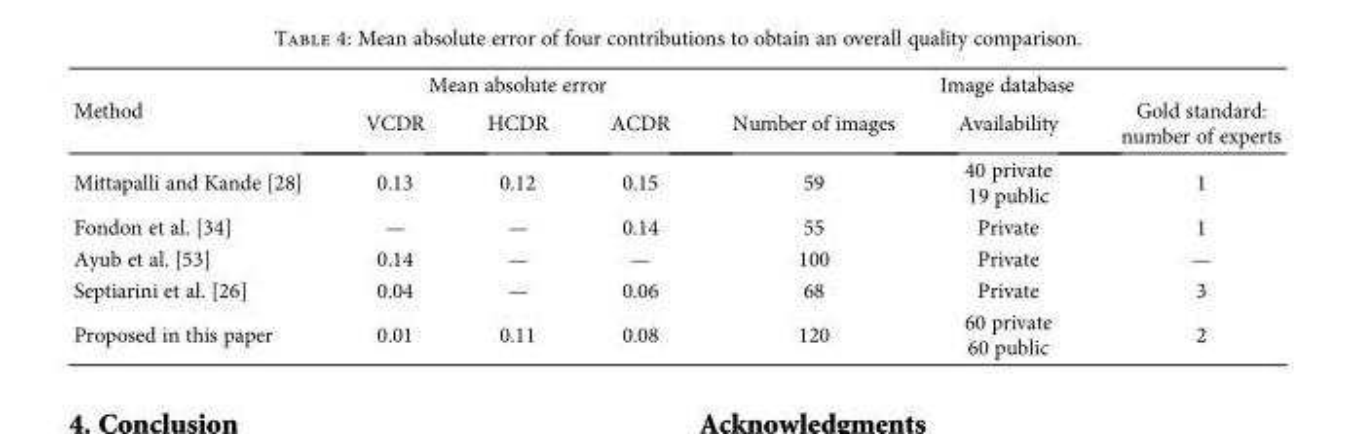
<table><thead><tr><td rowspan="2">Method</td><td colspan="3">Mean absolute error</td><td colspan="3">Image database</td></tr><tr><td>VCDR</td><td>HCDR</td><td>ACDR</td><td>Number of images</td><td>Availability</td><td>Gold standard: number of experts</td></tr></thead><tbody><tr><td>Mittapalli and Kande [28]</td><td>0.13</td><td>0.12</td><td>0.15</td><td>59</td><td>40 private 19 public</td><td>1</td></tr><tr><td>Fondon et al. [34]</td><td>—</td><td>—</td><td>0.14</td><td>55</td><td>Private</td><td>1</td></tr><tr><td>Ayub et al. [53]</td><td>0.14</td><td>—</td><td>—</td><td>100</td><td>Private</td><td>—</td></tr><tr><td>Septiarini et al. [26]</td><td>0.04</td><td>—</td><td>0.06</td><td>68</td><td>Private</td><td>3</td></tr><tr><td>Proposed in this paper</td><td>0.01</td><td>0.11</td><td>0.08</td><td>120</td><td>60 private 60 public</td><td>2</td></tr></tbody></table>